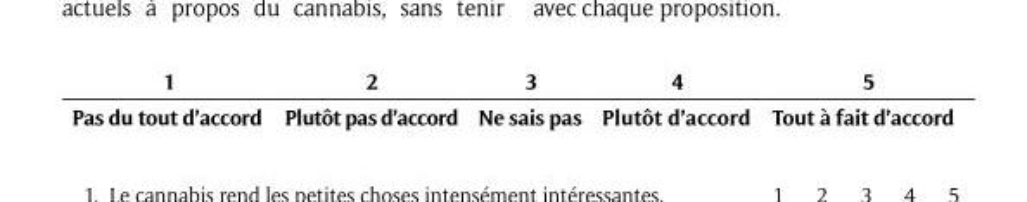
<table><thead><tr><td rowspan="2">1 Pas du tout d’accord</td><td rowspan="2">2 Plutôt pas d’accord</td><td rowspan="2">3 Ne sais pas</td><td rowspan="2">4 Plutôt d’accord</td><td rowspan="2">5 Tout à fait d’accord</td></tr><tr></tr></thead><tbody></tbody></table>